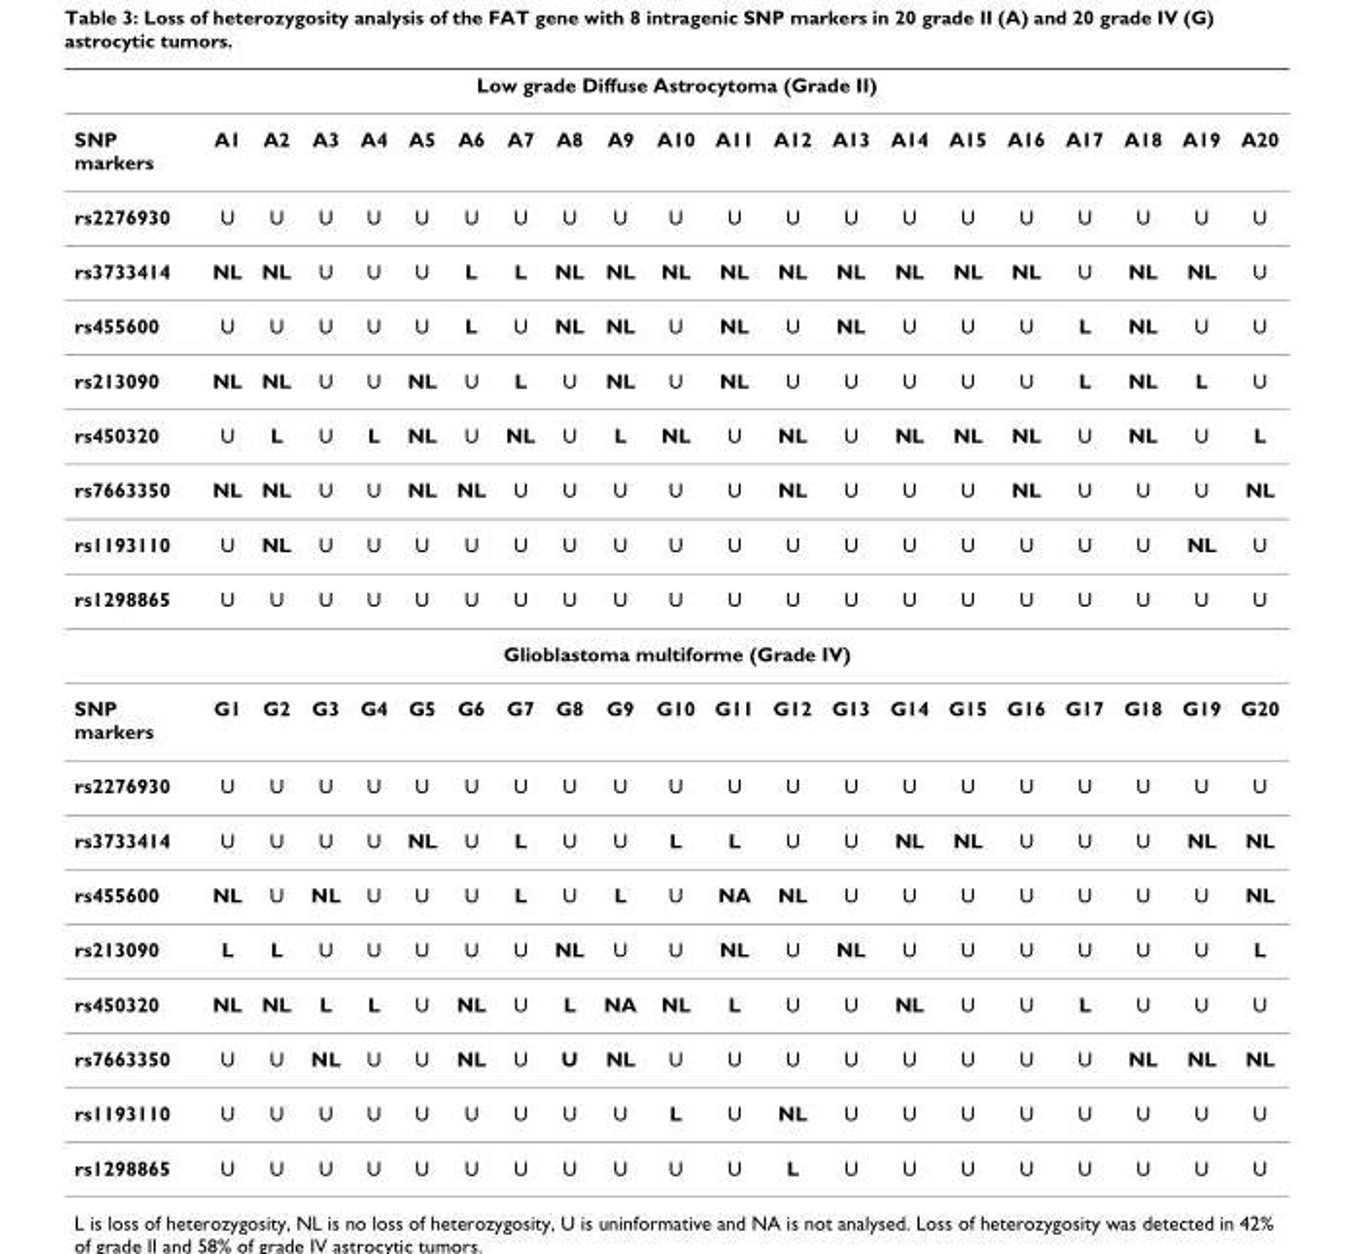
<table><thead><tr><td colspan="21">Low grade Diffuse Astrocytoma (Grade II)</td></tr><tr><td>SNP markers</td><td>A1</td><td>A2</td><td>A3</td><td>A4</td><td>A5</td><td>A6</td><td>A7</td><td>A8</td><td>A9</td><td>A10</td><td>A11</td><td>A12</td><td>A13</td><td>A14</td><td>A15</td><td>A16</td><td>A17</td><td>A18</td><td>A19</td><td>A20</td></tr></thead><tbody><tr><td>rs2276930</td><td>U</td><td>U</td><td>U</td><td>U</td><td>U</td><td>U</td><td>U</td><td>U</td><td>U</td><td>U</td><td>U</td><td>U</td><td>U</td><td>U</td><td>U</td><td>U</td><td>U</td><td>U</td><td>U</td><td>U</td></tr><tr><td>rs3733414</td><td>NL</td><td>NL</td><td>U</td><td>U</td><td>U</td><td>L</td><td>L</td><td>NL</td><td>NL</td><td>NL</td><td>NL</td><td>NL</td><td>NL</td><td>NL</td><td>NL</td><td>NL</td><td>U</td><td>NL</td><td>NL</td><td>U</td></tr><tr><td>rs455600</td><td>U</td><td>U</td><td>U</td><td>U</td><td>U</td><td>L</td><td>U</td><td>NL</td><td>NL</td><td>U</td><td>NL</td><td>U</td><td>NL</td><td>U</td><td>U</td><td>U</td><td>L</td><td>NL</td><td>U</td><td>U</td></tr><tr><td>rs213090</td><td>NL</td><td>NL</td><td>U</td><td>U</td><td>NL</td><td>U</td><td>L</td><td>U</td><td>NL</td><td>U</td><td>NL</td><td>U</td><td>U</td><td>U</td><td>U</td><td>U</td><td>L</td><td>NL</td><td>L</td><td>U</td></tr><tr><td>rs450320</td><td>U</td><td>L</td><td>U</td><td>L</td><td>NL</td><td>U</td><td>NL</td><td>U</td><td>L</td><td>NL</td><td>U</td><td>NL</td><td>U</td><td>NL</td><td>NL</td><td>NL</td><td>U</td><td>NL</td><td>U</td><td>L</td></tr><tr><td>rs7663350</td><td>NL</td><td>NL</td><td>U</td><td>U</td><td>NL</td><td>NL</td><td>U</td><td>U</td><td>U</td><td>U</td><td>U</td><td>NL</td><td>U</td><td>U</td><td>U</td><td>NL</td><td>U</td><td>U</td><td>U</td><td>NL</td></tr><tr><td>rs1193110</td><td>U</td><td>NL</td><td>U</td><td>U</td><td>U</td><td>U</td><td>U</td><td>U</td><td>U</td><td>U</td><td>U</td><td>U</td><td>U</td><td>U</td><td>U</td><td>U</td><td>U</td><td>U</td><td>NL</td><td>U</td></tr><tr><td>rs1298865</td><td>U</td><td>U</td><td>U</td><td>U</td><td>U</td><td>U</td><td>U</td><td>U</td><td>U</td><td>U</td><td>U</td><td>U</td><td>U</td><td>U</td><td>U</td><td>U</td><td>U</td><td>U</td><td>U</td><td>U</td></tr><tr><td colspan="21">Glioblastoma multiforme (Grade IV)</td></tr><tr><td>SNP markers</td><td>G1</td><td>G2</td><td>G3</td><td>G4</td><td>G5</td><td>G6</td><td>G7</td><td>G8</td><td>G9</td><td>G10</td><td>G11</td><td>G12</td><td>G13</td><td>G14</td><td>G15</td><td>G16</td><td>G17</td><td>G18</td><td>G19</td><td>G20</td></tr><tr><td>rs2276930</td><td>U</td><td>U</td><td>U</td><td>U</td><td>U</td><td>U</td><td>U</td><td>U</td><td>U</td><td>U</td><td>U</td><td>U</td><td>U</td><td>U</td><td>U</td><td>U</td><td>U</td><td>U</td><td>U</td><td>U</td></tr><tr><td>rs3733414</td><td>U</td><td>U</td><td>U</td><td>U</td><td>NL</td><td>U</td><td>L</td><td>U</td><td>U</td><td>L</td><td>L</td><td>U</td><td>U</td><td>NL</td><td>NL</td><td>U</td><td>U</td><td>U</td><td>NL</td><td>NL</td></tr><tr><td>rs455600</td><td>NL</td><td>U</td><td>NL</td><td>U</td><td>U</td><td>U</td><td>L</td><td>U</td><td>L</td><td>U</td><td>NA</td><td>NL</td><td>U</td><td>U</td><td>U</td><td>U</td><td>U</td><td>U</td><td>U</td><td>NL</td></tr><tr><td>rs213090</td><td>L</td><td>L</td><td>U</td><td>U</td><td>U</td><td>U</td><td>U</td><td>NL</td><td>U</td><td>U</td><td>NL</td><td>U</td><td>NL</td><td>U</td><td>U</td><td>U</td><td>U</td><td>U</td><td>U</td><td>L</td></tr><tr><td>rs450320</td><td>NL</td><td>NL</td><td>L</td><td>L</td><td>U</td><td>NL</td><td>U</td><td>L</td><td>NA</td><td>NL</td><td>L</td><td>U</td><td>U</td><td>NL</td><td>U</td><td>U</td><td>L</td><td>U</td><td>U</td><td>U</td></tr><tr><td>rs7663350</td><td>U</td><td>U</td><td>NL</td><td>U</td><td>U</td><td>NL</td><td>U</td><td>U</td><td>NL</td><td>U</td><td>U</td><td>U</td><td>U</td><td>U</td><td>U</td><td>U</td><td>U</td><td>NL</td><td>NL</td><td>NL</td></tr><tr><td>rs1193110</td><td>U</td><td>U</td><td>U</td><td>U</td><td>U</td><td>U</td><td>U</td><td>U</td><td>U</td><td>L</td><td>U</td><td>NL</td><td>U</td><td>U</td><td>U</td><td>U</td><td>U</td><td>U</td><td>U</td><td>U</td></tr><tr><td>rs1298865</td><td>U</td><td>U</td><td>U</td><td>U</td><td>U</td><td>U</td><td>U</td><td>U</td><td>U</td><td>U</td><td>U</td><td>L</td><td>U</td><td>U</td><td>U</td><td>U</td><td>U</td><td>U</td><td>U</td><td>U</td></tr></tbody></table>